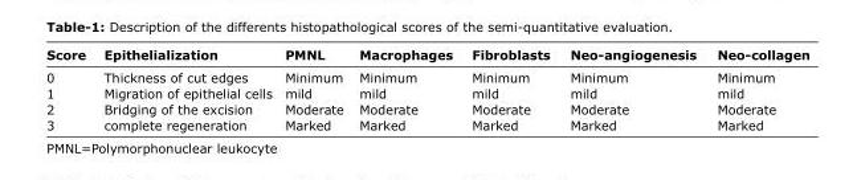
<table><thead><tr><td>Score</td><td>Epithelialization</td><td>PMNL</td><td>Macrophages</td><td>Fibroblasts</td><td>Neo-angiogenesis</td><td>Neo-collagen</td></tr></thead><tbody><tr><td>0</td><td>Thickness of cut edges</td><td>Minimum</td><td>Minimum</td><td>Minimum</td><td>Minimum</td><td>Minimum</td></tr><tr><td>1</td><td>Migration of epithelial cells</td><td>mild</td><td>mild</td><td>mild</td><td>mild</td><td>mild</td></tr><tr><td>2</td><td>Bridging of the excision</td><td>Moderate</td><td>Moderate</td><td>Moderate</td><td>Moderate</td><td>Moderate</td></tr><tr><td>3</td><td>complete regeneration</td><td>Marked</td><td>Marked</td><td>Marked</td><td>Marked</td><td>Marked</td></tr></tbody></table>